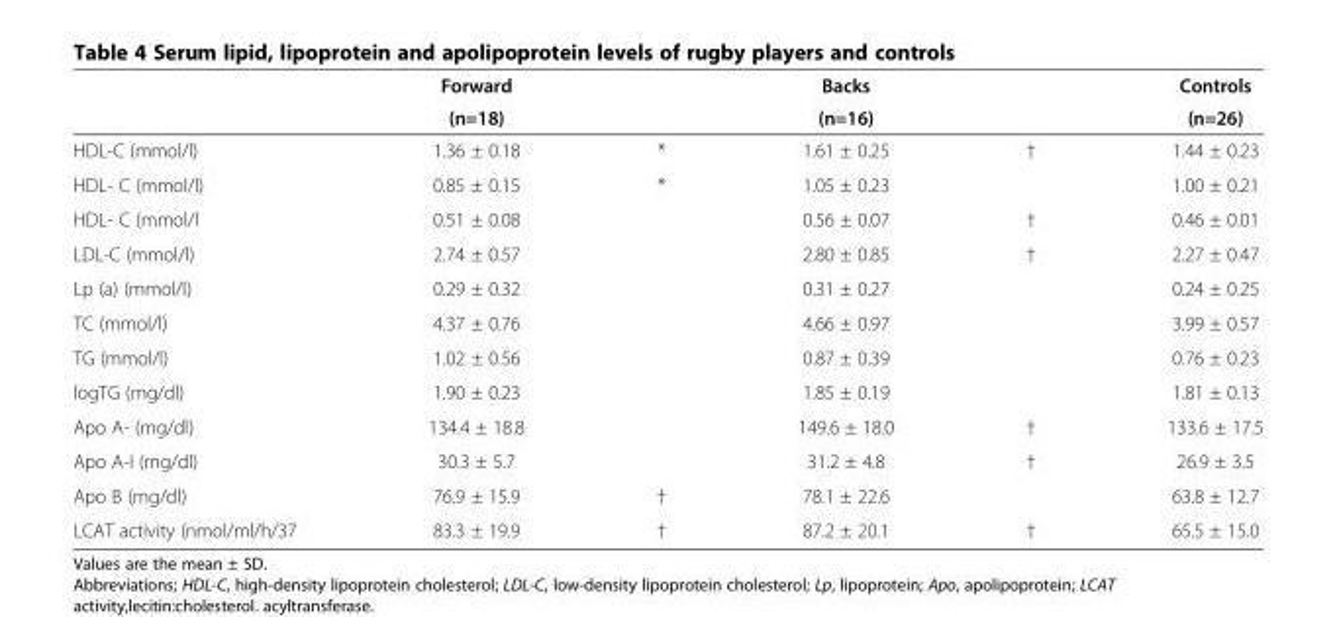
<table><thead><tr><td rowspan="2"></td><td rowspan="2">Forward (n=18)</td><td rowspan="2"></td><td rowspan="2">Backs (n=16)</td><td rowspan="2"></td><td rowspan="2">Controls (n=26)</td></tr><tr></tr></thead><tbody><tr><td>HDL-C (mmol/l)</td><td>1.36 ± 0.18</td><td>*</td><td>1.61 ± 0.25</td><td>†</td><td>1.44 ± 0.23</td></tr><tr><td>HDL- C (mmol/l)</td><td>0.85 ± 0.15</td><td>*</td><td>1.05 ± 0.23</td><td></td><td>1.00 ± 0.21</td></tr><tr><td>HDL- C (mmol/l</td><td>0.51 ± 0.08</td><td></td><td>0.56 ± 0.07</td><td>†</td><td>0.46 ± 0.01</td></tr><tr><td>LDL-C (mmol/l)</td><td>2.74 ± 0.57</td><td></td><td>2.80 ± 0.85</td><td>†</td><td>2.27 ± 0.47</td></tr><tr><td>Lp (a) (mmol/l)</td><td>0.29 ± 0.32</td><td></td><td>0.31 ± 0.27</td><td></td><td>0.24 ± 0.25</td></tr><tr><td>TC (mmol/l)</td><td>4.37 ± 0.76</td><td></td><td>4.66 ± 0.97</td><td></td><td>3.99 ± 0.57</td></tr><tr><td>TG (mmol/l)</td><td>1.02 ± 0.56</td><td></td><td>0.87 ± 0.39</td><td></td><td>0.76 ± 0.23</td></tr><tr><td>logTG (mg/dl)</td><td>1.90 ± 0.23</td><td></td><td>1.85 ± 0.19</td><td></td><td>1.81 ± 0.13</td></tr><tr><td>Apo A- (mg/dl)</td><td>134.4 ± 18.8</td><td></td><td>149.6 ± 18.0</td><td>†</td><td>133.6 ± 17.5</td></tr><tr><td>Apo A-I (mg/dl)</td><td>30.3 ± 5.7</td><td></td><td>31.2 ± 4.8</td><td>†</td><td>26.9 ± 3.5</td></tr><tr><td>Apo B (mg/dl)</td><td>76.9 ± 15.9</td><td>†</td><td>78.1 ± 22.6</td><td></td><td>63.8 ± 12.7</td></tr><tr><td>LCAT activity (nmol/ml/h/37</td><td>83.3 ± 19.9</td><td>†</td><td>87.2 ± 20.1</td><td>†</td><td>65.5 ± 15.0</td></tr></tbody></table>